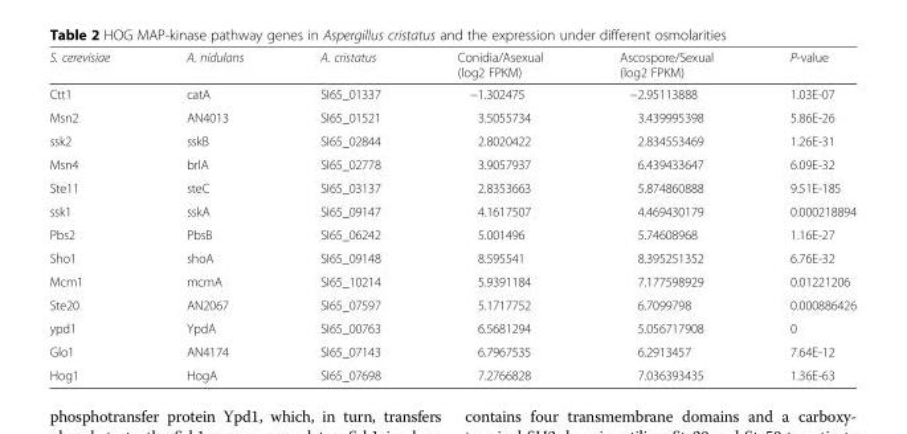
<table><thead><tr><td>S. cerevisiae</td><td>A. nidulans</td><td>A. cristatus</td><td>Conidia/Asexual (log2 FPKM)</td><td>Ascospore/Sexual (log2 FPKM)</td><td>P-value</td></tr></thead><tbody><tr><td>Ctt1</td><td>catA</td><td>SI65_01337</td><td>−1.302475</td><td>−2.95113888</td><td>1.03E-07</td></tr><tr><td>Msn2</td><td>AN4013</td><td>SI65_01521</td><td>3.5055734</td><td>3.439995398</td><td>5.86E-26</td></tr><tr><td>ssk2</td><td>sskB</td><td>SI65_02844</td><td>2.8020422</td><td>2.834553469</td><td>1.26E-31</td></tr><tr><td>Msn4</td><td>brlA</td><td>SI65_02778</td><td>3.9057937</td><td>6.439433647</td><td>6.09E-32</td></tr><tr><td>Ste11</td><td>steC</td><td>SI65_03137</td><td>2.8353663</td><td>5.874860888</td><td>9.51E-185</td></tr><tr><td>ssk1</td><td>sskA</td><td>SI65_09147</td><td>4.1617507</td><td>4.469430179</td><td>0.000218894</td></tr><tr><td>Pbs2</td><td>PbsB</td><td>SI65_06242</td><td>5.001496</td><td>5.74608968</td><td>1.16E-27</td></tr><tr><td>Sho1</td><td>shoA</td><td>SI65_09148</td><td>8.595541</td><td>8.395251352</td><td>6.76E-32</td></tr><tr><td>Mcm1</td><td>mcmA</td><td>SI65_10214</td><td>5.9391184</td><td>7.177598929</td><td>0.01221206</td></tr><tr><td>Ste20</td><td>AN2067</td><td>SI65_07597</td><td>5.1717752</td><td>6.7099798</td><td>0.000886426</td></tr><tr><td>ypd1</td><td>YpdA</td><td>SI65_00763</td><td>6.5681294</td><td>5.056717908</td><td>0</td></tr><tr><td>Glo1</td><td>AN4174</td><td>SI65_07143</td><td>6.7967535</td><td>6.2913457</td><td>7.64E-12</td></tr><tr><td>Hog1</td><td>HogA</td><td>SI65_07698</td><td>7.2766828</td><td>7.036393435</td><td>1.36E-63</td></tr></tbody></table>